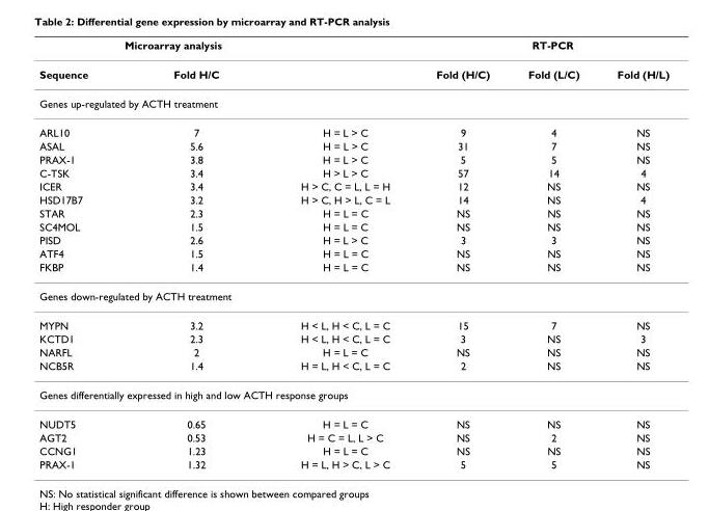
<table><thead><tr><td rowspan="2">Sequence</td><td rowspan="2">Microarray analysis Fold H/C</td><td rowspan="2"></td><td colspan="3">RT-PCR</td></tr><tr><td>Fold (H/C)</td><td>Fold (L/C)</td><td>Fold (H/L)</td></tr></thead><tbody><tr><td colspan="6">Genes up-regulated by ACTH treatment</td></tr><tr><td>ARL10</td><td>7</td><td>H = L &gt; C</td><td>9</td><td>4</td><td>NS</td></tr><tr><td>ASAL</td><td>5.6</td><td>H = L &gt; C</td><td>31</td><td>7</td><td>NS</td></tr><tr><td>PRAX-1</td><td>3.8</td><td>H = L &gt; C</td><td>5</td><td>5</td><td>NS</td></tr><tr><td>C-TSK</td><td>3.4</td><td>H &gt; L &gt; C</td><td>57</td><td>14</td><td>4</td></tr><tr><td>ICER</td><td>3.4</td><td>H &gt; C, C = L, L = H</td><td>12</td><td>NS</td><td>NS</td></tr><tr><td>HSD17B7</td><td>3.2</td><td>H &gt; C, H &gt; L, C = L</td><td>14</td><td>NS</td><td>4</td></tr><tr><td>STAR</td><td>2.3</td><td>H = L = C</td><td>NS</td><td>NS</td><td>NS</td></tr><tr><td>SC4MOL</td><td>1.5</td><td>H = L = C</td><td>NS</td><td>NS</td><td>NS</td></tr><tr><td>PISD</td><td>2.6</td><td>H = L &gt; C</td><td>3</td><td>3</td><td>NS</td></tr><tr><td>ATF4</td><td>1.5</td><td>H = L = C</td><td>NS</td><td>NS</td><td>NS</td></tr><tr><td>FKBP</td><td>1.4</td><td>H = L = C</td><td>NS</td><td>NS</td><td>NS</td></tr><tr><td colspan="6">Genes down-regulated by ACTH treatment</td></tr><tr><td>MYPN</td><td>3.2</td><td>H &lt; L, H &lt; C, L = C</td><td>15</td><td>7</td><td>NS</td></tr><tr><td>KCTD1</td><td>2.3</td><td>H &lt; L, H &lt; C, L = C</td><td>3</td><td>NS</td><td>3</td></tr><tr><td>NARFL</td><td>2</td><td>H = L = C</td><td>NS</td><td>NS</td><td>NS</td></tr><tr><td>NCB5R</td><td>1.4</td><td>H = L, H &lt; C, L = C</td><td>2</td><td>NS</td><td>NS</td></tr><tr><td colspan="6">Genes differentially expressed in high and low ACTH response groups</td></tr><tr><td>NUDT5</td><td>0.65</td><td>H = L = C</td><td>NS</td><td>NS</td><td>NS</td></tr><tr><td>AGT2</td><td>0.53</td><td>H = C = L, L &gt; C</td><td>NS</td><td>2</td><td>NS</td></tr><tr><td>CCNG1</td><td>1.23</td><td>H = L = C</td><td>NS</td><td>NS</td><td>NS</td></tr><tr><td>PRAX-1</td><td>1.32</td><td>H = L, H &gt; C, L &gt; C</td><td>5</td><td>5</td><td>NS</td></tr></tbody></table>